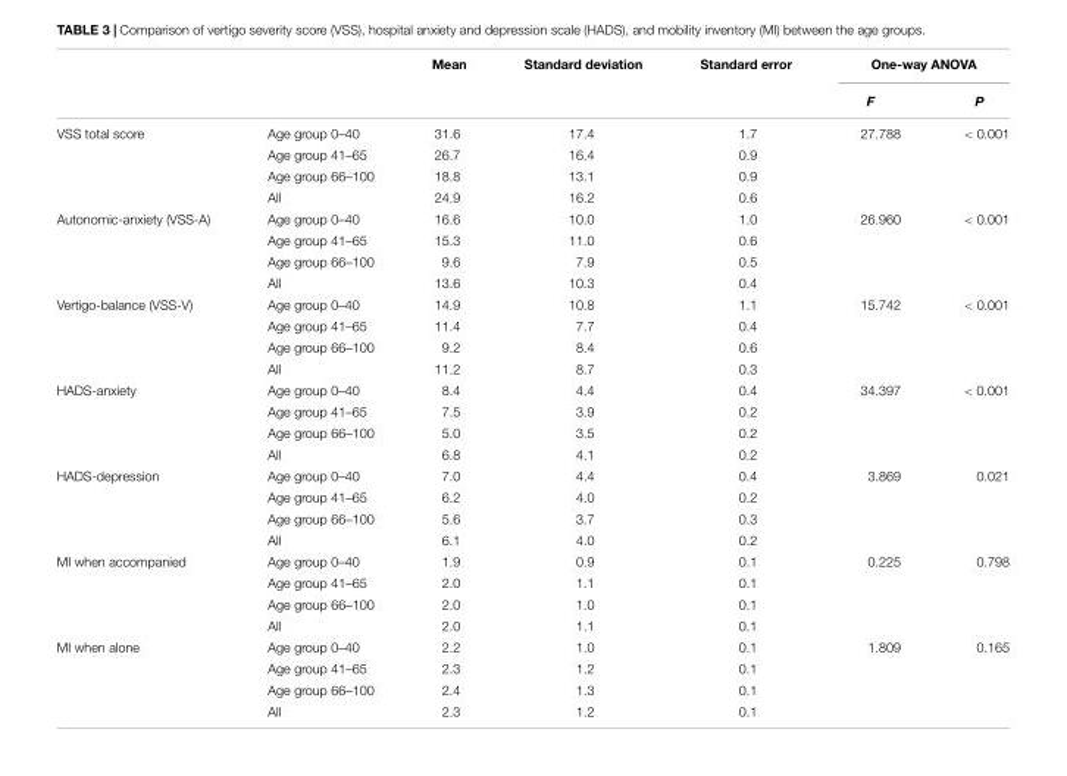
<table><thead><tr><td rowspan="2"></td><td rowspan="2"></td><td rowspan="2">Mean</td><td rowspan="2">Standard deviation</td><td rowspan="2">Standard error</td><td colspan="2">One-way ANOVA</td></tr><tr><td>F</td><td>P</td></tr></thead><tbody><tr><td rowspan="4">VSS total score</td><td>Age group 0–40</td><td>31.6</td><td>17.4</td><td>1.7</td><td>27.788</td><td>&lt; 0.001</td></tr><tr><td>Age group 41–65</td><td>26.7</td><td>16.4</td><td>0.9</td><td></td><td></td></tr><tr><td>Age group 66–100</td><td>18.8</td><td>13.1</td><td>0.9</td><td></td><td></td></tr><tr><td>All</td><td>24.9</td><td>16.2</td><td>0.6</td><td></td><td></td></tr><tr><td rowspan="4">Autonomic-anxiety (VSS-A)</td><td>Age group 0–40</td><td>16.6</td><td>10.0</td><td>1.0</td><td>26.960</td><td>&lt; 0.001</td></tr><tr><td>Age group 41–65</td><td>15.3</td><td>11.0</td><td>0.6</td><td></td><td></td></tr><tr><td>Age group 66–100</td><td>9.6</td><td>7.9</td><td>0.5</td><td></td><td></td></tr><tr><td>All</td><td>13.6</td><td>10.3</td><td>0.4</td><td></td><td></td></tr><tr><td rowspan="4">Vertigo-balance (VSS-V)</td><td>Age group 0–40</td><td>14.9</td><td>10.8</td><td>1.1</td><td>15.742</td><td>&lt; 0.001</td></tr><tr><td>Age group 41–65</td><td>11.4</td><td>7.7</td><td>0.4</td><td></td><td></td></tr><tr><td>Age group 66–100</td><td>9.2</td><td>8.4</td><td>0.6</td><td></td><td></td></tr><tr><td>All</td><td>11.2</td><td>8.7</td><td>0.3</td><td></td><td></td></tr><tr><td rowspan="4">HADS-anxiety</td><td>Age group 0–40</td><td>8.4</td><td>4.4</td><td>0.4</td><td>34.397</td><td>&lt; 0.001</td></tr><tr><td>Age group 41–65</td><td>7.5</td><td>3.9</td><td>0.2</td><td></td><td></td></tr><tr><td>Age group 66–100</td><td>5.0</td><td>3.5</td><td>0.2</td><td></td><td></td></tr><tr><td>All</td><td>6.8</td><td>4.1</td><td>0.2</td><td></td><td></td></tr><tr><td rowspan="4">HADS-depression</td><td>Age group 0–40</td><td>7.0</td><td>4.4</td><td>0.4</td><td>3.869</td><td>0.021</td></tr><tr><td>Age group 41–65</td><td>6.2</td><td>4.0</td><td>0.2</td><td></td><td></td></tr><tr><td>Age group 66–100</td><td>5.6</td><td>3.7</td><td>0.3</td><td></td><td></td></tr><tr><td>All</td><td>6.1</td><td>4.0</td><td>0.2</td><td></td><td></td></tr><tr><td rowspan="4">MI when accompanied</td><td>Age group 0–40</td><td>1.9</td><td>0.9</td><td>0.1</td><td>0.225</td><td>0.798</td></tr><tr><td>Age group 41–65</td><td>2.0</td><td>1.1</td><td>0.1</td><td></td><td></td></tr><tr><td>Age group 66–100</td><td>2.0</td><td>1.0</td><td>0.1</td><td></td><td></td></tr><tr><td>All</td><td>2.0</td><td>1.1</td><td>0.1</td><td></td><td></td></tr><tr><td rowspan="4">MI when alone</td><td>Age group 0–40</td><td>2.2</td><td>1.0</td><td>0.1</td><td>1.809</td><td>0.165</td></tr><tr><td>Age group 41–65</td><td>2.3</td><td>1.2</td><td>0.1</td><td></td><td></td></tr><tr><td>Age group 66–100</td><td>2.4</td><td>1.3</td><td>0.1</td><td></td><td></td></tr><tr><td>All</td><td>2.3</td><td>1.2</td><td>0.1</td><td></td><td></td></tr></tbody></table>